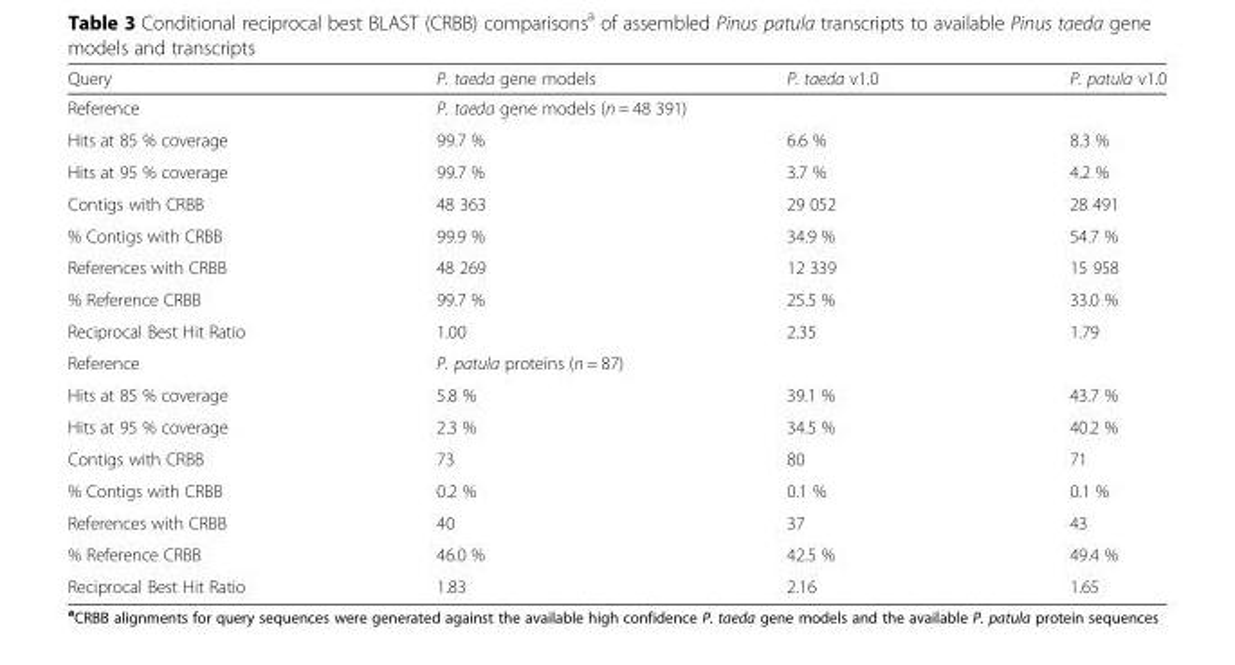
<table><thead><tr><td>Query</td><td>P. taeda gene models</td><td>P. taeda v1.0</td><td>P. patula v1.0</td></tr></thead><tbody><tr><td>Reference</td><td colspan="3">P. taeda gene models (n = 48 391)</td></tr><tr><td>Hits at 85 % coverage</td><td>99.7 %</td><td>6.6 %</td><td>8.3 %</td></tr><tr><td>Hits at 95 % coverage</td><td>99.7 %</td><td>3.7 %</td><td>4.2 %</td></tr><tr><td>Contigs with CRBB</td><td>48 363</td><td>29 052</td><td>28 491</td></tr><tr><td>% Contigs with CRBB</td><td>99.9 %</td><td>34.9 %</td><td>54.7 %</td></tr><tr><td>References with CRBB</td><td>48 269</td><td>12 339</td><td>15 958</td></tr><tr><td>% Reference CRBB</td><td>99.7 %</td><td>25.5 %</td><td>33.0 %</td></tr><tr><td>Reciprocal Best Hit Ratio</td><td>1.00</td><td>2.35</td><td>1.79</td></tr><tr><td>Reference</td><td colspan="3">P. patula proteins (n = 87)</td></tr><tr><td>Hits at 85 % coverage</td><td>5.8 %</td><td>39.1 %</td><td>43.7 %</td></tr><tr><td>Hits at 95 % coverage</td><td>2.3 %</td><td>34.5 %</td><td>40.2 %</td></tr><tr><td>Contigs with CRBB</td><td>73</td><td>80</td><td>71</td></tr><tr><td>% Contigs with CRBB</td><td>0.2 %</td><td>0.1 %</td><td>0.1 %</td></tr><tr><td>References with CRBB</td><td>40</td><td>37</td><td>43</td></tr><tr><td>% Reference CRBB</td><td>46.0 %</td><td>42.5 %</td><td>49.4 %</td></tr><tr><td>Reciprocal Best Hit Ratio</td><td>1.83</td><td>2.16</td><td>1.65</td></tr></tbody></table>